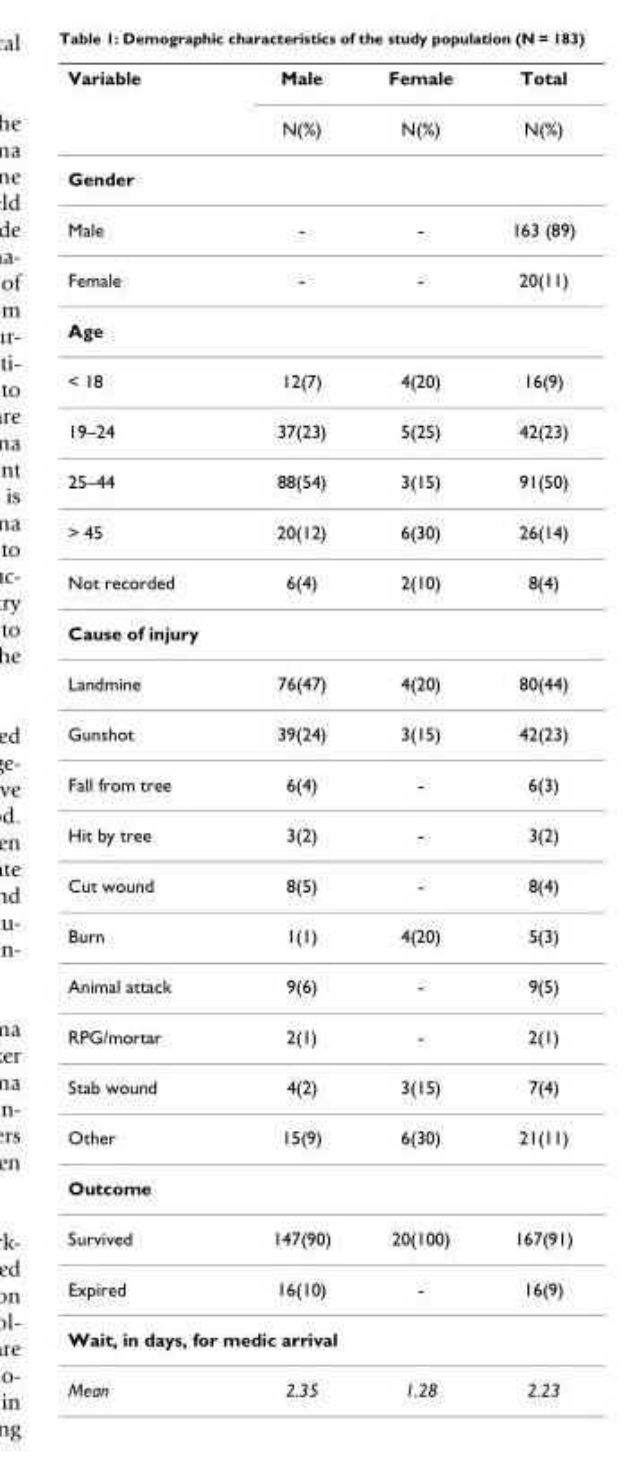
<table><thead><tr><td rowspan="2">Variable</td><td rowspan="2">Male N(%)</td><td rowspan="2">Female N(%)</td><td rowspan="2">Total N(%)</td></tr><tr></tr></thead><tbody><tr><td colspan="4">Gender</td></tr><tr><td>Male</td><td>-</td><td>-</td><td>163 (89)</td></tr><tr><td>Female</td><td>-</td><td>-</td><td>20(11)</td></tr><tr><td colspan="4">Age</td></tr><tr><td>&lt; 18</td><td>12(7)</td><td>4(20)</td><td>16(9)</td></tr><tr><td>19–24</td><td>37(23)</td><td>5(25)</td><td>42(23)</td></tr><tr><td>25–44</td><td>88(54)</td><td>3(15)</td><td>91(50)</td></tr><tr><td>&gt; 45</td><td>20(12)</td><td>6(30)</td><td>26(14)</td></tr><tr><td>Not recorded</td><td>6(4)</td><td>2(10)</td><td>8(4)</td></tr><tr><td colspan="4">Cause of injury</td></tr><tr><td>Landmine</td><td>76(47)</td><td>4(20)</td><td>80(44)</td></tr><tr><td>Gunshot</td><td>39(24)</td><td>3(15)</td><td>42(23)</td></tr><tr><td>Fall from tree</td><td>6(4)</td><td>-</td><td>6(3)</td></tr><tr><td>Hit by tree</td><td>3(2)</td><td>-</td><td>3(2)</td></tr><tr><td>Cut wound</td><td>8(5)</td><td>-</td><td>8(4)</td></tr><tr><td>Burn</td><td>1(1)</td><td>4(20)</td><td>5(3)</td></tr><tr><td>Animal attack</td><td>9(6)</td><td>-</td><td>9(5)</td></tr><tr><td>RPG/mortar</td><td>2(1)</td><td>-</td><td>2(1)</td></tr><tr><td>Stab wound</td><td>4(2)</td><td>3(15)</td><td>7(4)</td></tr><tr><td>Other</td><td>15(9)</td><td>6(30)</td><td>21(11)</td></tr><tr><td colspan="4">Outcome</td></tr><tr><td>Survived</td><td>147(90)</td><td>20(100)</td><td>167(91)</td></tr><tr><td>Expired</td><td>16(10)</td><td>-</td><td>16(9)</td></tr><tr><td colspan="4">Wait, in days, for medic arrival</td></tr><tr><td>Mean</td><td>2.35</td><td>1.28</td><td>2.23</td></tr></tbody></table>